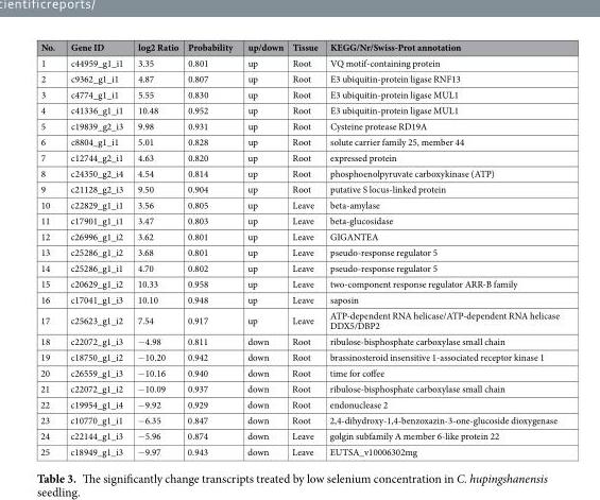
<table><thead><tr><td>No.</td><td>Gene ID</td><td>log2 Ratio</td><td>Probability</td><td>up/down</td><td>Tissue</td><td>KEGG/Nr/Swiss-Prot annotation</td></tr></thead><tbody><tr><td>1</td><td>c44959_g1_i1</td><td>3.35</td><td>0.801</td><td>up</td><td>Root</td><td>VQ motif-containing protein</td></tr><tr><td>2</td><td>c9362_g1_i1</td><td>4.87</td><td>0.807</td><td>up</td><td>Root</td><td>E3 ubiquitin-protein ligase RNF13</td></tr><tr><td>3</td><td>c4774_g1_i1</td><td>5.55</td><td>0.830</td><td>up</td><td>Root</td><td>E3 ubiquitin-protein ligase MUL1</td></tr><tr><td>4</td><td>c41336_g1_i1</td><td>10.48</td><td>0.952</td><td>up</td><td>Root</td><td>E3 ubiquitin-protein ligase MUL1</td></tr><tr><td>5</td><td>c19839_g2_i3</td><td>9.98</td><td>0.931</td><td>up</td><td>Root</td><td>Cysteine protease RD19A</td></tr><tr><td>6</td><td>c8804_g1_i1</td><td>5.01</td><td>0.828</td><td>up</td><td>Root</td><td>solute carrier family 25, member 44</td></tr><tr><td>7</td><td>c12744_g2_i1</td><td>4.63</td><td>0.820</td><td>up</td><td>Root</td><td>expressed protein</td></tr><tr><td>8</td><td>c24350_g2_i4</td><td>4.54</td><td>0.814</td><td>up</td><td>Root</td><td>phosphoenolpyruvate carboxykinase (ATP)</td></tr><tr><td>9</td><td>c21128_g2_i3</td><td>9.50</td><td>0.904</td><td>up</td><td>Root</td><td>putative S locus-linked protein</td></tr><tr><td>10</td><td>c22829_g1_i1</td><td>3.56</td><td>0.805</td><td>up</td><td>Leave</td><td>beta-amylase</td></tr><tr><td>11</td><td>c17901_g1_i1</td><td>3.47</td><td>0.803</td><td>up</td><td>Leave</td><td>beta-glucosidase</td></tr><tr><td>12</td><td>c26996_g1_i2</td><td>3.62</td><td>0.801</td><td>up</td><td>Leave</td><td>GIGANTEA</td></tr><tr><td>13</td><td>c25286_g1_i2</td><td>3.68</td><td>0.801</td><td>up</td><td>Leave</td><td>pseudo-response regulator 5</td></tr><tr><td>14</td><td>c25286_g1_i1</td><td>4.70</td><td>0.802</td><td>up</td><td>Leave</td><td>pseudo-response regulator 5</td></tr><tr><td>15</td><td>c20629_g1_i2</td><td>10.33</td><td>0.958</td><td>up</td><td>Leave</td><td>two-component response regulator ARR-B family</td></tr><tr><td>16</td><td>c17041_g1_i3</td><td>10.10</td><td>0.948</td><td>up</td><td>Leave</td><td>saposin</td></tr><tr><td>17</td><td>c25623_g1_i2</td><td>7.54</td><td>0.917</td><td>up</td><td>Leave</td><td>ATP-dependent RNA helicase/ATP-dependent RNA helicase DDX5/DBP2</td></tr><tr><td>18</td><td>c22072_g1_i3</td><td>−4.98</td><td>0.811</td><td>down</td><td>Root</td><td>ribulose-bisphosphate carboxylase small chain</td></tr><tr><td>19</td><td>c18750_g1_i2</td><td>−10.20</td><td>0.942</td><td>down</td><td>Root</td><td>brassinosteroid insensitive 1-associated receptor kinase 1</td></tr><tr><td>20</td><td>c26559_g1_i3</td><td>−10.16</td><td>0.940</td><td>down</td><td>Root</td><td>time for coffee</td></tr><tr><td>21</td><td>c22072_g1_i2</td><td>−10.09</td><td>0.937</td><td>down</td><td>Root</td><td>ribulose-bisphosphate carboxylase small chain</td></tr><tr><td>22</td><td>c19954_g1_i4</td><td>−9.92</td><td>0.929</td><td>down</td><td>Root</td><td>endonuclease 2</td></tr><tr><td>23</td><td>c10770_g1_i1</td><td>−6.35</td><td>0.847</td><td>down</td><td>Root</td><td>2,4-dihydroxy-1,4-benzoxazin-3-one-glucoside dioxygenase</td></tr><tr><td>24</td><td>c22144_g1_i3</td><td>−5.96</td><td>0.874</td><td>down</td><td>Leave</td><td>golgin subfamily A member 6-like protein 22</td></tr><tr><td>25</td><td>c18949_g1_i3</td><td>−9.97</td><td>0.943</td><td>down</td><td>Leave</td><td>EUTSA_v10006302mg</td></tr></tbody></table>